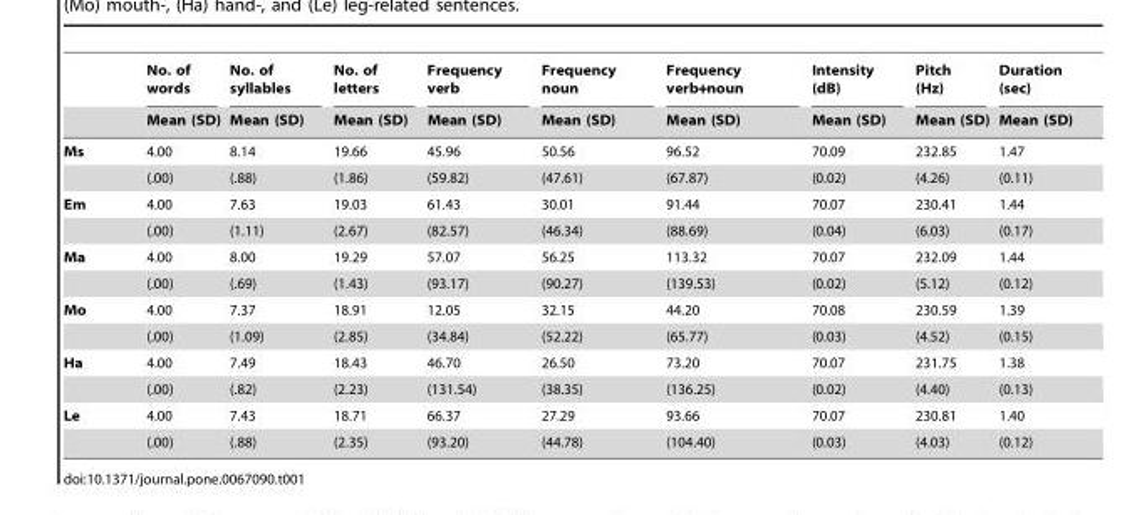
<table><thead><tr><td rowspan="2"></td><td rowspan="2">No. of words Mean (SD)</td><td rowspan="2">No. of syllables Mean (SD)</td><td rowspan="2">No. of letters Mean (SD)</td><td rowspan="2">Frequency verb Mean (SD)</td><td rowspan="2">Frequency noun Mean (SD)</td><td rowspan="2">Frequency verb+noun Mean (SD)</td><td rowspan="2">Intensity (dB) Mean (SD)</td><td rowspan="2">Pitch (Hz) Mean (SD)</td><td rowspan="2">Duration (sec) Mean (SD)</td></tr><tr></tr></thead><tbody><tr><td rowspan="2">Ms</td><td>4.00</td><td>8.14</td><td>19.66</td><td>45.96</td><td>50.56</td><td>96.52</td><td>70.09</td><td>232.85</td><td>1.47</td></tr><tr><td>(.00)</td><td>(.88)</td><td>(1.86)</td><td>(59.82)</td><td>(47.61)</td><td>(67.87)</td><td>(0.02)</td><td>(4.26)</td><td>(0.11)</td></tr><tr><td rowspan="2">Em</td><td>4.00</td><td>7.63</td><td>19.03</td><td>61.43</td><td>30.01</td><td>91.44</td><td>70.07</td><td>230.41</td><td>1.44</td></tr><tr><td>(.00)</td><td>(1.11)</td><td>(2.67)</td><td>(82.57)</td><td>(46.34)</td><td>(88.69)</td><td>(0.04)</td><td>(6.03)</td><td>(0.17)</td></tr><tr><td rowspan="2">Ma</td><td>4.00</td><td>8.00</td><td>19.29</td><td>57.07</td><td>56.25</td><td>113.32</td><td>70.07</td><td>232.09</td><td>1.44</td></tr><tr><td>(.00)</td><td>(.69)</td><td>(1.43)</td><td>(93.17)</td><td>(90.27)</td><td>(139.53)</td><td>(0.02)</td><td>(5.12)</td><td>(0.12)</td></tr><tr><td rowspan="2">Mo</td><td>4.00</td><td>7.37</td><td>18.91</td><td>12.05</td><td>32.15</td><td>44.20</td><td>70.08</td><td>230.59</td><td>1.39</td></tr><tr><td>(.00)</td><td>(1.09)</td><td>(2.85)</td><td>(34.84)</td><td>(52.22)</td><td>(65.77)</td><td>(0.03)</td><td>(4.52)</td><td>(0.15)</td></tr><tr><td rowspan="2">Ha</td><td>4.00</td><td>7.49</td><td>18.43</td><td>46.70</td><td>26.50</td><td>73.20</td><td>70.07</td><td>231.75</td><td>1.38</td></tr><tr><td>(.00)</td><td>(.82)</td><td>(2.23)</td><td>(131.54)</td><td>(38.35)</td><td>(136.25)</td><td>(0.02)</td><td>(4.40)</td><td>(0.13)</td></tr><tr><td rowspan="2">Le</td><td>4.00</td><td>7.43</td><td>18.71</td><td>66.37</td><td>27.29</td><td>93.66</td><td>70.07</td><td>230.81</td><td>1.40</td></tr><tr><td>(.00)</td><td>(.88)</td><td>(2.35)</td><td>(93.20)</td><td>(44.78)</td><td>(104.40)</td><td>(0.03)</td><td>(4.03)</td><td>(0.12)</td></tr></tbody></table>